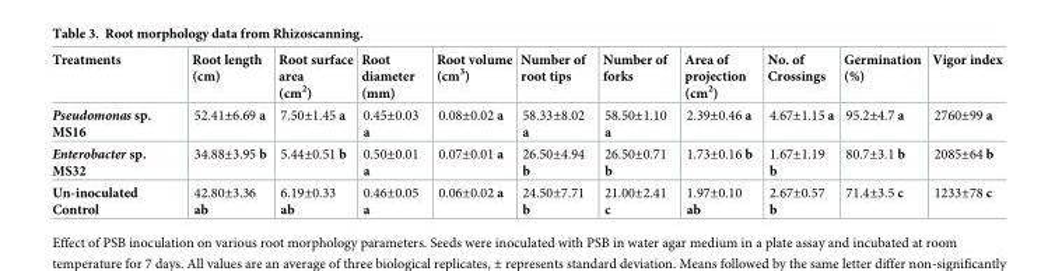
<table><thead><tr><td>Treatments</td><td>Root length (cm)</td><td>Root surface area (cm<sup>2</sup>)</td><td>Root diameter (mm)</td><td>Root volume (cm<sup>3</sup>)</td><td>Number of root tips</td><td>Number of forks</td><td>Area of projection (cm<sup>2</sup>)</td><td>No. of Crossings</td><td>Germination (%)</td><td>Vigor index</td></tr></thead><tbody><tr><td>Pseudomonas sp. MS16</td><td>52.41±6.69 a</td><td>7.50±1.45 a</td><td>0.45±0.03 a</td><td>0.08±0.02 a</td><td>58.33±8.02 a</td><td>58.50±1.10 a</td><td>2.39±0.46 a</td><td>4.67±1.15 a</td><td>95.2±4.7 a</td><td>2760±99 a</td></tr><tr><td>Enterobacter sp. MS32</td><td>34.88±3.95 b</td><td>5.44±0.51 b</td><td>0.50±0.01 a</td><td>0.07±0.01 a</td><td>26.50±4.94 b</td><td>26.50±0.71 b</td><td>1.73±0.16 b</td><td>1.67±1.19 b</td><td>80.7±3.1 b</td><td>2085±64 b</td></tr><tr><td>Un-inoculated Control</td><td>42.80±3.36 ab</td><td>6.19±0.33 ab</td><td>0.46±0.05 a</td><td>0.06±0.02 a</td><td>24.50±7.71 b</td><td>21.00±2.41 c</td><td>1.97±0.10 ab</td><td>2.67±0.57 b</td><td>71.4±3.5 c</td><td>1233±78 c</td></tr></tbody></table>